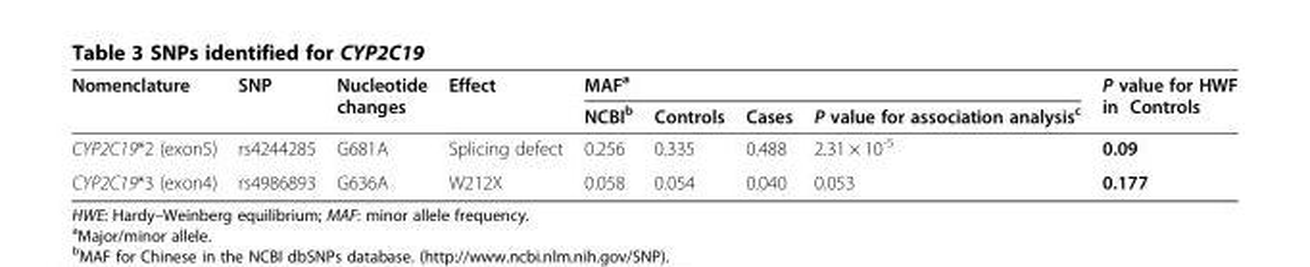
<table><thead><tr><td rowspan="2">Nomenclature</td><td rowspan="2">SNP</td><td rowspan="2">Nucleotide changes</td><td rowspan="2">Effect</td><td colspan="4">MAF<sup>a</sup></td><td rowspan="2">P value for HWF in Controls</td></tr><tr><td>NCBI<sup>b</sup></td><td>Controls</td><td>Cases</td><td>P value for association analysis<sup>c</sup></td></tr></thead><tbody><tr><td>CYP2C19*2 (exon5)</td><td>rs4244285</td><td>G681A</td><td>Splicing defect</td><td>0.256</td><td>0.335</td><td>0.488</td><td>2.31 × 10<sup>-5</sup></td><td>0.09</td></tr><tr><td>CYP2C19*3 (exon4)</td><td>rs4986893</td><td>G636A</td><td>W212X</td><td>0.058</td><td>0.054</td><td>0.040</td><td>0.053</td><td>0.177</td></tr></tbody></table>